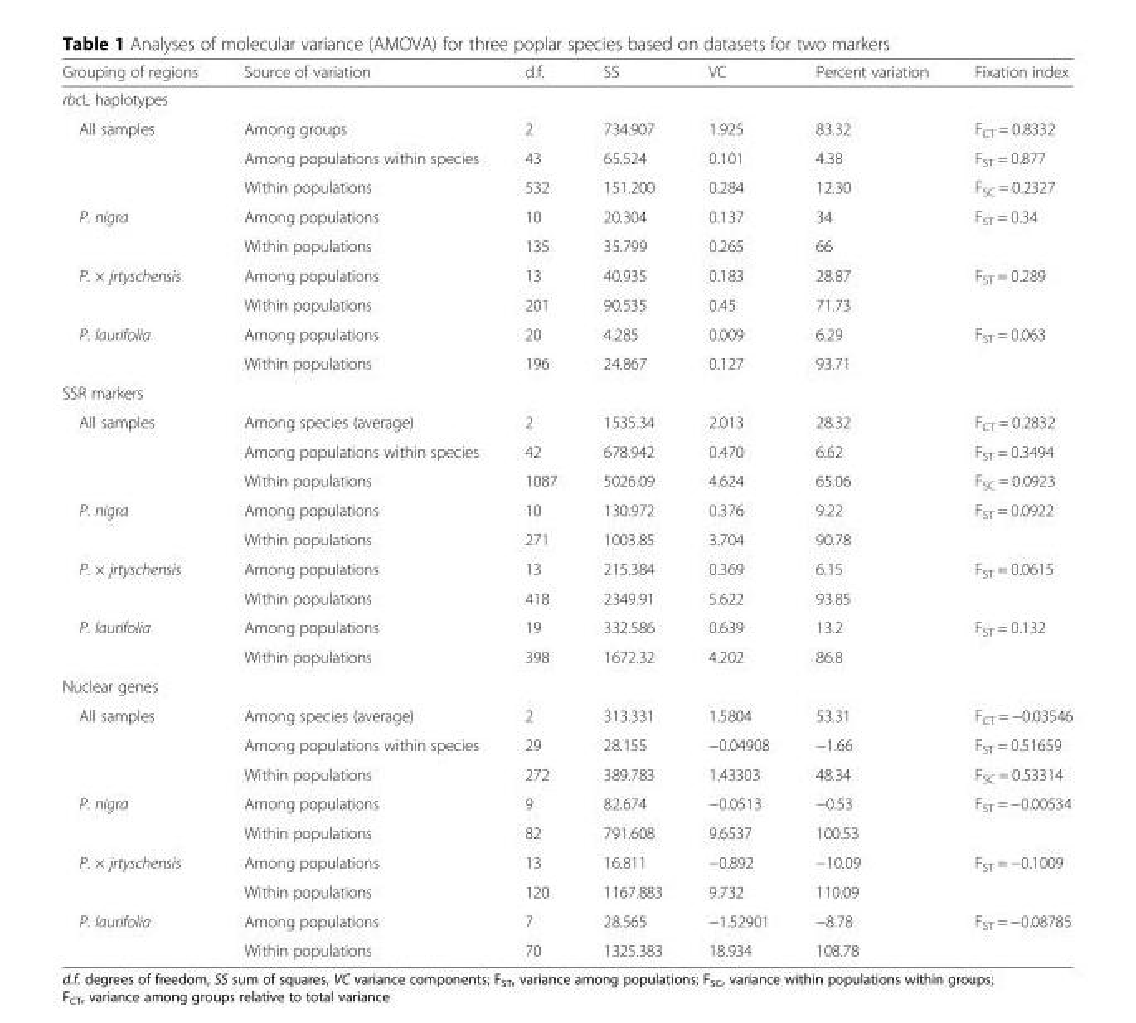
<table><thead><tr><td>Grouping of regions</td><td>Source of variation</td><td>d.f.</td><td>SS</td><td>VC</td><td>Percent variation</td><td>Fixation index</td></tr></thead><tbody><tr><td colspan="7">rbcL haplotypes</td></tr><tr><td rowspan="3">All samples</td><td>Among groups</td><td>2</td><td>734.907</td><td>1.925</td><td>83.32</td><td>F<sub>CT</sub> = 0.8332</td></tr><tr><td>Among populations within species</td><td>43</td><td>65.524</td><td>0.101</td><td>4.38</td><td>F<sub>ST</sub> = 0.877</td></tr><tr><td>Within populations</td><td>532</td><td>151.200</td><td>0.284</td><td>12.30</td><td>F<sub>SC</sub> = 0.2327</td></tr><tr><td rowspan="2">P. nigra</td><td>Among populations</td><td>10</td><td>20.304</td><td>0.137</td><td>34</td><td>F<sub>ST</sub> = 0.34</td></tr><tr><td>Within populations</td><td>135</td><td>35.799</td><td>0.265</td><td>66</td><td></td></tr><tr><td rowspan="2">P. × jrtyschensis</td><td>Among populations</td><td>13</td><td>40.935</td><td>0.183</td><td>28.87</td><td>F<sub>ST</sub> = 0.289</td></tr><tr><td>Within populations</td><td>201</td><td>90.535</td><td>0.45</td><td>71.73</td><td></td></tr><tr><td rowspan="2">P. laurifolia</td><td>Among populations</td><td>20</td><td>4.285</td><td>0.009</td><td>6.29</td><td>F<sub>ST</sub> = 0.063</td></tr><tr><td>Within populations</td><td>196</td><td>24.867</td><td>0.127</td><td>93.71</td><td></td></tr><tr><td colspan="7">SSR markers</td></tr><tr><td rowspan="3">All samples</td><td>Among species (average)</td><td>2</td><td>1535.34</td><td>2.013</td><td>28.32</td><td>F<sub>CT</sub> = 0.2832</td></tr><tr><td>Among populations within species</td><td>42</td><td>678.942</td><td>0.470</td><td>6.62</td><td>F<sub>ST</sub> = 0.3494</td></tr><tr><td>Within populations</td><td>1087</td><td>5026.09</td><td>4.624</td><td>65.06</td><td>F<sub>SC</sub> = 0.0923</td></tr><tr><td rowspan="2">P. nigra</td><td>Among populations</td><td>10</td><td>130.972</td><td>0.376</td><td>9.22</td><td>F<sub>ST</sub> = 0.0922</td></tr><tr><td>Within populations</td><td>271</td><td>1003.85</td><td>3.704</td><td>90.78</td><td></td></tr><tr><td rowspan="2">P. × jrtyschensis</td><td>Among populations</td><td>13</td><td>215.384</td><td>0.369</td><td>6.15</td><td>F<sub>ST</sub> = 0.0615</td></tr><tr><td>Within populations</td><td>418</td><td>2349.91</td><td>5.622</td><td>93.85</td><td></td></tr><tr><td rowspan="2">P. laurifolia</td><td>Among populations</td><td>19</td><td>332.586</td><td>0.639</td><td>13.2</td><td>F<sub>ST</sub> = 0.132</td></tr><tr><td>Within populations</td><td>398</td><td>1672.32</td><td>4.202</td><td>86.8</td><td></td></tr><tr><td colspan="7">Nuclear genes</td></tr><tr><td rowspan="3">All samples</td><td>Among species (average)</td><td>2</td><td>313.331</td><td>1.5804</td><td>53.31</td><td>F<sub>CT</sub> = −0.03546</td></tr><tr><td>Among populations within species</td><td>29</td><td>28.155</td><td>−0.04908</td><td>−1.66</td><td>F<sub>ST</sub> = 0.51659</td></tr><tr><td>Within populations</td><td>272</td><td>389.783</td><td>1.43303</td><td>48.34</td><td>F<sub>SC</sub> = 0.53314</td></tr><tr><td rowspan="2">P. nigra</td><td>Among populations</td><td>9</td><td>82.674</td><td>−0.0513</td><td>−0.53</td><td>F<sub>ST</sub> = −0.00534</td></tr><tr><td>Within populations</td><td>82</td><td>791.608</td><td>9.6537</td><td>100.53</td><td></td></tr><tr><td rowspan="2">P. × jrtyschensis</td><td>Among populations</td><td>13</td><td>16.811</td><td>−0.892</td><td>−10.09</td><td>F<sub>ST</sub> = −0.1009</td></tr><tr><td>Within populations</td><td>120</td><td>1167.883</td><td>9.732</td><td>110.09</td><td></td></tr><tr><td rowspan="2">P. laurifolia</td><td>Among populations</td><td>7</td><td>28.565</td><td>−1.52901</td><td>−8.78</td><td>F<sub>ST</sub> = −0.08785</td></tr><tr><td>Within populations</td><td>70</td><td>1325.383</td><td>18.934</td><td>108.78</td><td></td></tr></tbody></table>